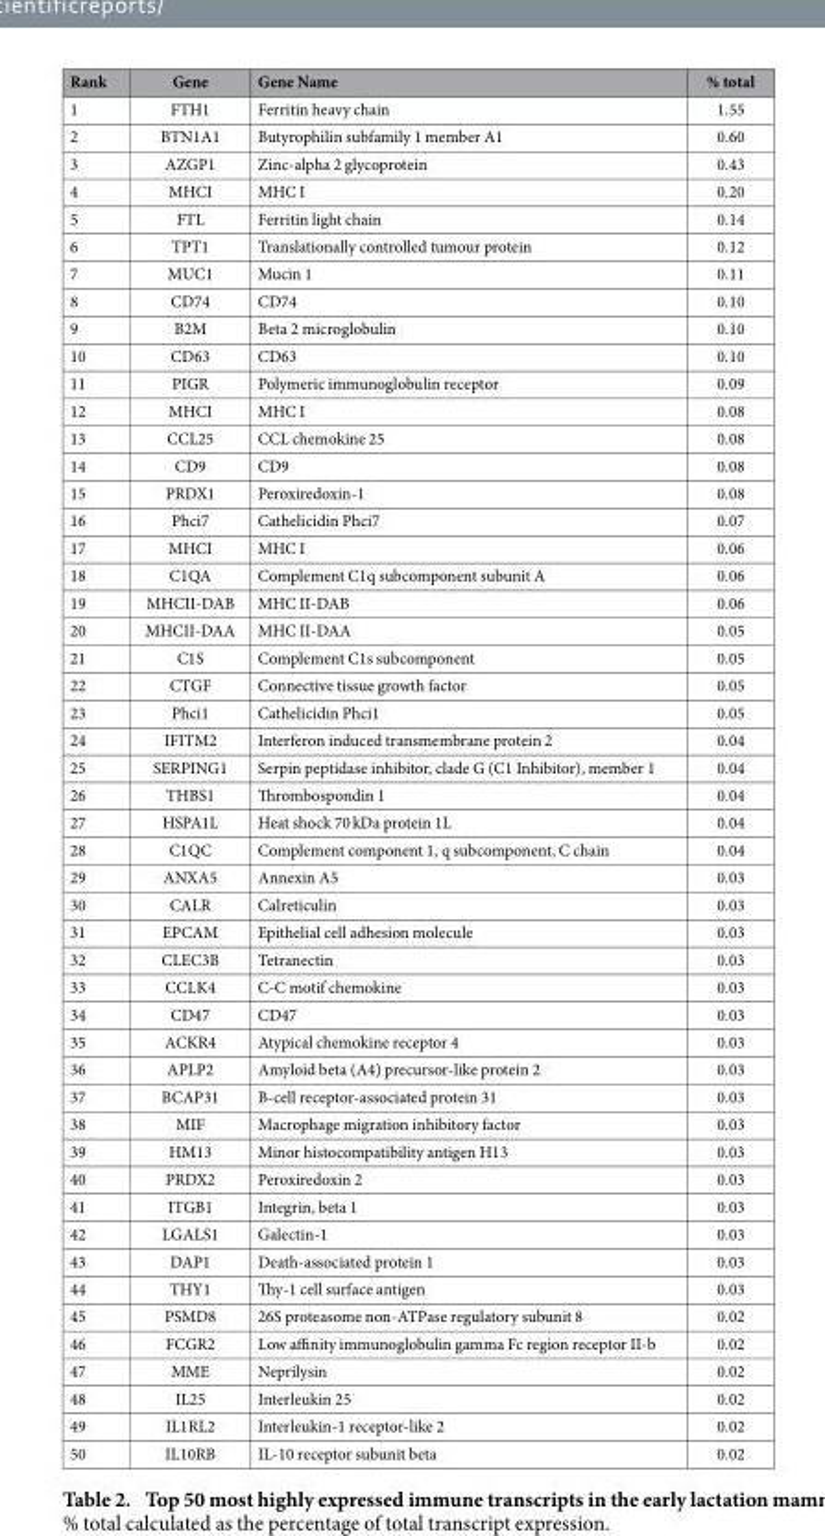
<table><thead><tr><td>Rank</td><td>Gene</td><td>Gene Name</td><td>% total</td></tr></thead><tbody><tr><td>1</td><td>FTH1</td><td>Ferritin heavy chain</td><td>1.55</td></tr><tr><td>2</td><td>BTN1A1</td><td>Butyrophilin subfamily 1 member A1</td><td>0.60</td></tr><tr><td>3</td><td>AZGP1</td><td>Zinc-alpha 2 glycoprotein</td><td>0.43</td></tr><tr><td>4</td><td>MHCI</td><td>MHC I</td><td>0.20</td></tr><tr><td>5</td><td>FTL</td><td>Ferritin light chain</td><td>0.14</td></tr><tr><td>6</td><td>TPT1</td><td>Translationally controlled tumour protein</td><td>0.12</td></tr><tr><td>7</td><td>MUC1</td><td>Mucin 1</td><td>0.11</td></tr><tr><td>8</td><td>CD74</td><td>CD74</td><td>0.10</td></tr><tr><td>9</td><td>B2M</td><td>Beta 2 microglobulin</td><td>0.10</td></tr><tr><td>10</td><td>CD63</td><td>CD63</td><td>0.10</td></tr><tr><td>11</td><td>PIGR</td><td>Polymeric immunoglobulin receptor</td><td>0.09</td></tr><tr><td>12</td><td>MHCI</td><td>MHC I</td><td>0.08</td></tr><tr><td>13</td><td>CCL25</td><td>CCL chemokine 25</td><td>0.08</td></tr><tr><td>14</td><td>CD9</td><td>CD9</td><td>0.08</td></tr><tr><td>15</td><td>PRDX1</td><td>Peroxiredoxin-1</td><td>0.08</td></tr><tr><td>16</td><td>Phci7</td><td>Cathelicidin Phci7</td><td>0.07</td></tr><tr><td>17</td><td>MHCI</td><td>MHC I</td><td>0.06</td></tr><tr><td>18</td><td>C1QA</td><td>Complement C1q subcomponent subunit A</td><td>0.06</td></tr><tr><td>19</td><td>MHCII-DAB</td><td>MHC II-DAB</td><td>0.06</td></tr><tr><td>20</td><td>MHCII-DAA</td><td>MHC II-DAA</td><td>0.05</td></tr><tr><td>21</td><td>C1S</td><td>Complement C1s subcomponent</td><td>0.05</td></tr><tr><td>22</td><td>CTGF</td><td>Connective tissue growth factor</td><td>0.05</td></tr><tr><td>23</td><td>Phci1</td><td>Cathelicidin Phci1</td><td>0.05</td></tr><tr><td>24</td><td>IFITM2</td><td>Interferon induced transmembrane protein 2</td><td>0.04</td></tr><tr><td>25</td><td>SERPING1</td><td>Serpin peptidase inhibitor, clade G (C1 Inhibitor), member 1</td><td>0.04</td></tr><tr><td>26</td><td>THBS1</td><td>Thrombospondin 1</td><td>0.04</td></tr><tr><td>27</td><td>HSPA1L</td><td>Heat shock 70 kDa protein 1L</td><td>0.04</td></tr><tr><td>28</td><td>C1QC</td><td>Complement component 1, q subcomponent, C chain</td><td>0.04</td></tr><tr><td>29</td><td>ANXA5</td><td>Annexin A5</td><td>0.03</td></tr><tr><td>30</td><td>CALR</td><td>Calreticulin</td><td>0.03</td></tr><tr><td>31</td><td>EPCAM</td><td>Epithelial cell adhesion molecule</td><td>0.03</td></tr><tr><td>32</td><td>CLEC3B</td><td>Tetranectin</td><td>0.03</td></tr><tr><td>33</td><td>CCLK4</td><td>C-C motif chemokine</td><td>0.03</td></tr><tr><td>34</td><td>CD47</td><td>CD47</td><td>0.03</td></tr><tr><td>35</td><td>ACKR4</td><td>Atypical chemokine receptor 4</td><td>0.03</td></tr><tr><td>36</td><td>APLP2</td><td>Amyloid beta (A4) precursor-like protein 2</td><td>0.03</td></tr><tr><td>37</td><td>BCAP31</td><td>B-cell receptor-associated protein 31</td><td>0.03</td></tr><tr><td>38</td><td>MIF</td><td>Macrophage migration inhibitory factor</td><td>0.03</td></tr><tr><td>39</td><td>HM13</td><td>Minor histocompatibility antigen H13</td><td>0.03</td></tr><tr><td>40</td><td>PRDX2</td><td>Peroxiredoxin 2</td><td>0.03</td></tr><tr><td>41</td><td>ITGB1</td><td>Integrin, beta 1</td><td>0.03</td></tr><tr><td>42</td><td>LGALS1</td><td>Galectin-1</td><td>0.03</td></tr><tr><td>43</td><td>DAP1</td><td>Death-associated protein 1</td><td>0.03</td></tr><tr><td>44</td><td>THY1</td><td>Thy-1 cell surface antigen</td><td>0.03</td></tr><tr><td>45</td><td>PSMD8</td><td>26S proteasome non-ATPase regulatory subunit 8</td><td>0.02</td></tr><tr><td>46</td><td>FCGR2</td><td>Low affinity immunoglobulin gamma Fc region receptor II-b</td><td>0.02</td></tr><tr><td>47</td><td>MME</td><td>Neprilysin</td><td>0.02</td></tr><tr><td>48</td><td>IL25</td><td>Interleukin 25</td><td>0.02</td></tr><tr><td>49</td><td>IL1RL2</td><td>Interleukin-1 receptor-like 2</td><td>0.02</td></tr><tr><td>50</td><td>IL10RB</td><td>IL-10 receptor subunit beta</td><td>0.02</td></tr></tbody></table>